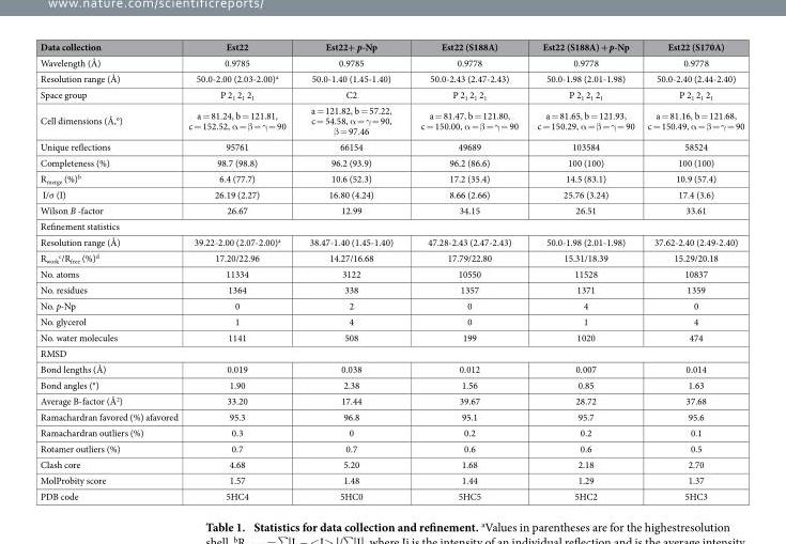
<table><thead><tr><td>Data collection</td><td>Est22</td><td>Est22+ p-Np</td><td>Est22 (S188A)</td><td>Est22 (S188A) + p-Np</td><td>Est22 (S170A)</td></tr></thead><tbody><tr><td>Wavelength (Å)</td><td>0.9785</td><td>0.9785</td><td>0.9778</td><td>0.9778</td><td>0.9778</td></tr><tr><td>Resolution range (Å)</td><td>50.0-2.00 (2.03-2.00)<sup>a</sup></td><td>50.0-1.40 (1.45-1.40)</td><td>50.0-2.43 (2.47-2.43)</td><td>50.0-1.98 (2.01-1.98)</td><td>50.0-2.40 (2.44-2.40)</td></tr><tr><td>Space group</td><td>P 2<sub>1</sub> 2<sub>1</sub> 2<sub>1</sub></td><td>C2</td><td>P 2<sub>1</sub> 2<sub>1</sub> 2<sub>1</sub></td><td>P 2<sub>1</sub> 2<sub>1</sub> 2<sub>1</sub></td><td>P 2<sub>1</sub> 2<sub>1</sub> 2<sub>1</sub></td></tr><tr><td>Cell dimensions (Å,°)</td><td>a = 81.24, b = 121.81, c = 152.52, α = β = γ = 90</td><td>a = 121.82, b = 57.22, c = 54.58, α = γ = 90, β = 97.46</td><td>a = 81.47, b = 121.80, c = 150.00, α = β = γ = 90</td><td>a = 81.65, b = 121.93, c = 150.29, α = β = γ = 90</td><td>a = 81.16, b = 121.68, c = 150.49, α = β = γ = 90</td></tr><tr><td>Unique reflections</td><td>95761</td><td>66154</td><td>49689</td><td>103584</td><td>58524</td></tr><tr><td>Completeness (%)</td><td>98.7 (98.8)</td><td>96.2 (93.9)</td><td>96.2 (86.6)</td><td>100 (100)</td><td>100 (100)</td></tr><tr><td>R<sub>merge</sub> (%)<sup>b</sup></td><td>6.4 (77.7)</td><td>10.6 (52.3)</td><td>17.2 (35.4)</td><td>14.5 (83.1)</td><td>10.9 (57.4)</td></tr><tr><td>I/σ (I)</td><td>26.19 (2.27)</td><td>16.80 (4.24)</td><td>8.66 (2.66)</td><td>25.76 (3.24)</td><td>17.4 (3.6)</td></tr><tr><td>Wilson B -factor</td><td>26.67</td><td>12.99</td><td>34.15</td><td>26.51</td><td>33.61</td></tr><tr><td colspan="6">Refinement statistics</td></tr><tr><td>Resolution range (Å)</td><td>39.22-2.00 (2.07-2.00)<sup>a</sup></td><td>38.47-1.40 (1.45-1.40)</td><td>47.28-2.43 (2.47-2.43)</td><td>50.0-1.98 (2.01-1.98)</td><td>37.62-2.40 (2.49-2.40)</td></tr><tr><td>R<sub>work</sub> <sup>c</sup>/R<sub>free</sub> (%)<sup>d</sup></td><td>17.20/22.96</td><td>14.27/16.68</td><td>17.79/22.80</td><td>15.31/18.39</td><td>15.29/20.18</td></tr><tr><td>No. atoms</td><td>11334</td><td>3122</td><td>10550</td><td>11528</td><td>10837</td></tr><tr><td>No. residues</td><td>1364</td><td>338</td><td>1357</td><td>1371</td><td>1359</td></tr><tr><td>No. p-Np</td><td>0</td><td>2</td><td>0</td><td>4</td><td>0</td></tr><tr><td>No. glycerol</td><td>1</td><td>4</td><td>0</td><td>1</td><td>4</td></tr><tr><td>No. water molecules</td><td>1141</td><td>508</td><td>199</td><td>1020</td><td>474</td></tr><tr><td colspan="6">RMSD</td></tr><tr><td>Bond lengths (Å)</td><td>0.019</td><td>0.038</td><td>0.012</td><td>0.007</td><td>0.014</td></tr><tr><td>Bond angles (°)</td><td>1.90</td><td>2.38</td><td>1.56</td><td>0.85</td><td>1.63</td></tr><tr><td>Average B-factor (Å<sup>2</sup>)</td><td>33.20</td><td>17.44</td><td>39.67</td><td>28.72</td><td>37.68</td></tr><tr><td>Ramachardran favored (%) afavored</td><td>95.3</td><td>96.8</td><td>95.1</td><td>95.7</td><td>95.6</td></tr><tr><td>Ramachardran outliers (%)</td><td>0.3</td><td>0</td><td>0.2</td><td>0.2</td><td>0.1</td></tr><tr><td>Rotamer outliers (%)</td><td>0.7</td><td>0.7</td><td>0.6</td><td>0.6</td><td>0.5</td></tr><tr><td>Clash core</td><td>4.68</td><td>5.20</td><td>1.68</td><td>2.18</td><td>2.70</td></tr><tr><td>MolProbity score</td><td>1.57</td><td>1.48</td><td>1.44</td><td>1.29</td><td>1.37</td></tr><tr><td>PDB code</td><td>5HC4</td><td>5HC0</td><td>5HC5</td><td>5HC2</td><td>5HC3</td></tr></tbody></table>